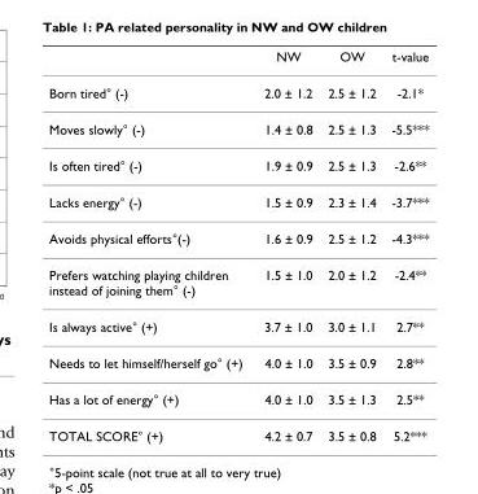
<table><thead><tr><td></td><td>NW</td><td>OW</td><td>t-value</td></tr></thead><tbody><tr><td>Born tired° (-)</td><td>2.0 ± 1.2</td><td>2.5 ± 1.2</td><td>-2.1*</td></tr><tr><td>Moves slowly° (-)</td><td>1.4 ± 0.8</td><td>2.5 ± 1.3</td><td>-5.5***</td></tr><tr><td>Is often tired° (-)</td><td>1.9 ± 0.9</td><td>2.5 ± 1.3</td><td>-2.6**</td></tr><tr><td>Lacks energy° (-)</td><td>1.5 ± 0.9</td><td>2.3 ± 1.4</td><td>-3.7***</td></tr><tr><td>Avoids physical efforts°(-)</td><td>1.6 ± 0.9</td><td>2.5 ± 1.2</td><td>-4.3***</td></tr><tr><td>Prefers watching playing children instead of joining them° (-)</td><td>1.5 ± 1.0</td><td>2.0 ± 1.2</td><td>-2.4**</td></tr><tr><td>Is always active° (+)</td><td>3.7 ± 1.0</td><td>3.0 ± 1.1</td><td>2.7**</td></tr><tr><td>Needs to let himself/herself go° (+)</td><td>4.0 ± 1.0</td><td>3.5 ± 0.9</td><td>2.8**</td></tr><tr><td>Has a lot of energy° (+)</td><td>4.0 ± 1.0</td><td>3.5 ± 1.3</td><td>2.5**</td></tr><tr><td>TOTAL SCORE° (+)</td><td>4.2 ± 0.7</td><td>3.5 ± 0.8</td><td>5.2***</td></tr></tbody></table>